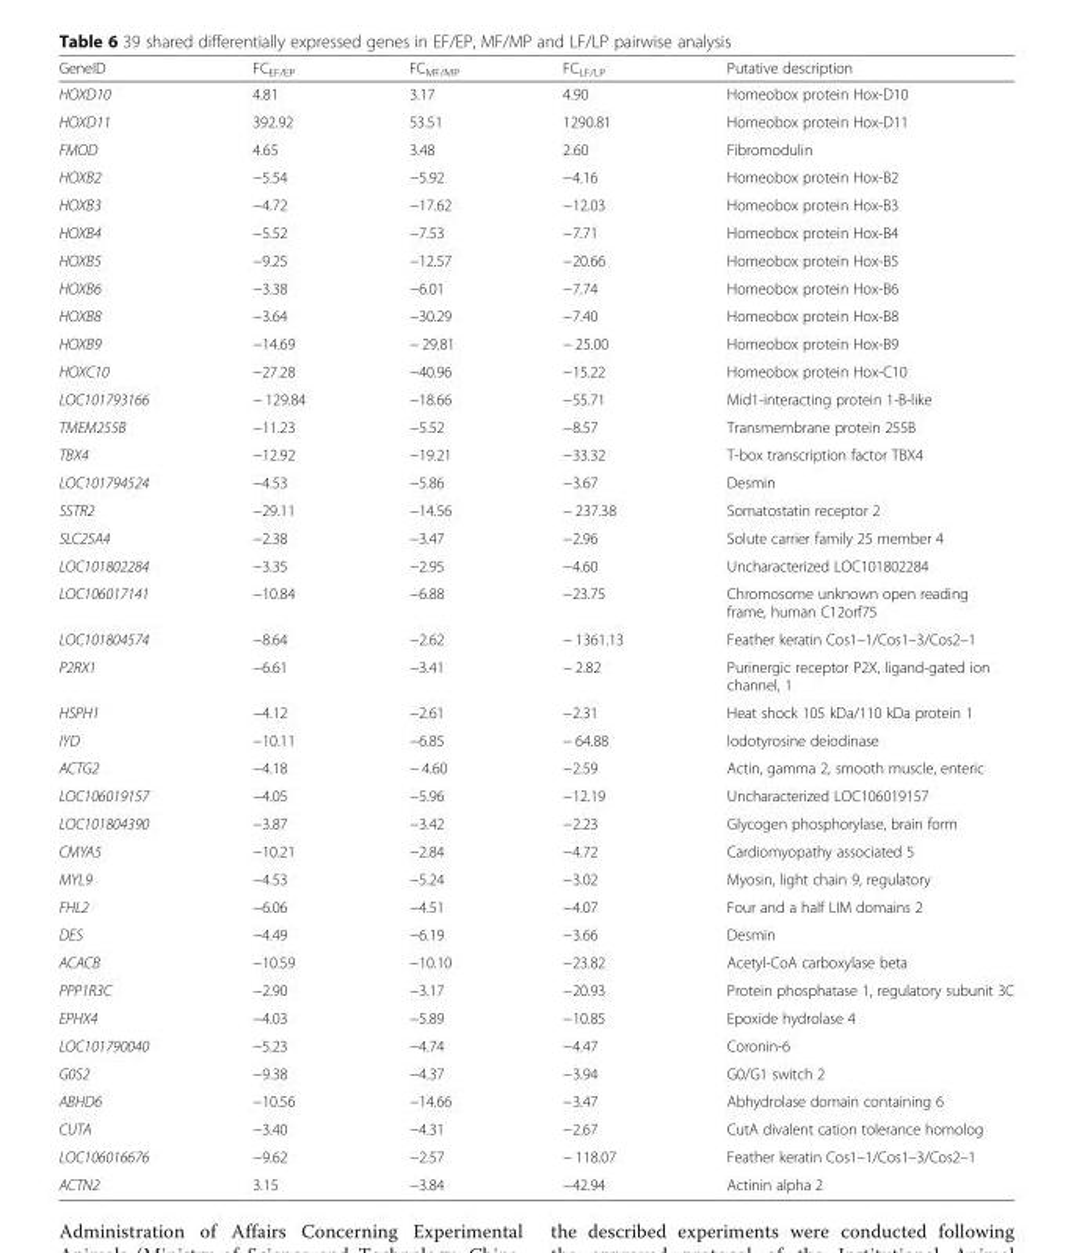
<table><thead><tr><td>GeneID</td><td>FC<sub>EF/EP</sub></td><td>FC<sub>MF/MP</sub></td><td>FC<sub>LF/LP</sub></td><td>Putative description</td></tr></thead><tbody><tr><td>HOXD10</td><td>4.81</td><td>3.17</td><td>4.90</td><td>Homeobox protein Hox-D10</td></tr><tr><td>HOXD11</td><td>392.92</td><td>53.51</td><td>1290.81</td><td>Homeobox protein Hox-D11</td></tr><tr><td>FMOD</td><td>4.65</td><td>3.48</td><td>2.60</td><td>Fibromodulin</td></tr><tr><td>HOXB2</td><td>−5.54</td><td>−5.92</td><td>−4.16</td><td>Homeobox protein Hox-B2</td></tr><tr><td>HOXB3</td><td>−4.72</td><td>−17.62</td><td>−12.03</td><td>Homeobox protein Hox-B3</td></tr><tr><td>HOXB4</td><td>−5.52</td><td>−7.53</td><td>−7.71</td><td>Homeobox protein Hox-B4</td></tr><tr><td>HOXB5</td><td>−9.25</td><td>−12.57</td><td>−20.66</td><td>Homeobox protein Hox-B5</td></tr><tr><td>HOXB6</td><td>−3.38</td><td>−6.01</td><td>−7.74</td><td>Homeobox protein Hox-B6</td></tr><tr><td>HOXB8</td><td>−3.64</td><td>−30.29</td><td>−7.40</td><td>Homeobox protein Hox-B8</td></tr><tr><td>HOXB9</td><td>−14.69</td><td>− 29.81</td><td>− 25.00</td><td>Homeobox protein Hox-B9</td></tr><tr><td>HOXC10</td><td>−27.28</td><td>−40.96</td><td>−15.22</td><td>Homeobox protein Hox-C10</td></tr><tr><td>LOC101793166</td><td>− 129.84</td><td>−18.66</td><td>−55.71</td><td>Mid1-interacting protein 1-B-like</td></tr><tr><td>TMEM255B</td><td>−11.23</td><td>−5.52</td><td>−8.57</td><td>Transmembrane protein 255B</td></tr><tr><td>TBX4</td><td>−12.92</td><td>−19.21</td><td>−33.32</td><td>T-box transcription factor TBX4</td></tr><tr><td>LOC101794524</td><td>−4.53</td><td>−5.86</td><td>−3.67</td><td>Desmin</td></tr><tr><td>SSTR2</td><td>−29.11</td><td>−14.56</td><td>− 237.38</td><td>Somatostatin receptor 2</td></tr><tr><td>SLC25A4</td><td>−2.38</td><td>−3.47</td><td>−2.96</td><td>Solute carrier family 25 member 4</td></tr><tr><td>LOC101802284</td><td>−3.35</td><td>−2.95</td><td>−4.60</td><td>Uncharacterized LOC101802284</td></tr><tr><td>LOC106017141</td><td>−10.84</td><td>−6.88</td><td>−23.75</td><td>Chromosome unknown open reading frame, human C12orf75</td></tr><tr><td>LOC101804574</td><td>−8.64</td><td>−2.62</td><td>− 1361.13</td><td>Feather keratin Cos1–1/Cos1–3/Cos2–1</td></tr><tr><td>P2RX1</td><td>−6.61</td><td>−3.41</td><td>− 2.82</td><td>Purinergic receptor P2X, ligand-gated ion channel, 1</td></tr><tr><td>HSPH1</td><td>−4.12</td><td>−2.61</td><td>−2.31</td><td>Heat shock 105 kDa/110 kDa protein 1</td></tr><tr><td>IYD</td><td>−10.11</td><td>−6.85</td><td>− 64.88</td><td>Iodotyrosine deiodinase</td></tr><tr><td>ACTG2</td><td>−4.18</td><td>− 4.60</td><td>−2.59</td><td>Actin, gamma 2, smooth muscle, enteric</td></tr><tr><td>LOC106019157</td><td>−4.05</td><td>−5.96</td><td>−12.19</td><td>Uncharacterized LOC106019157</td></tr><tr><td>LOC101804390</td><td>−3.87</td><td>−3.42</td><td>−2.23</td><td>Glycogen phosphorylase, brain form</td></tr><tr><td>CMYA5</td><td>−10.21</td><td>−2.84</td><td>−4.72</td><td>Cardiomyopathy associated 5</td></tr><tr><td>MYL9</td><td>−4.53</td><td>−5.24</td><td>−3.02</td><td>Myosin, light chain 9, regulatory</td></tr><tr><td>FHL2</td><td>−6.06</td><td>−4.51</td><td>−4.07</td><td>Four and a half LIM domains 2</td></tr><tr><td>DES</td><td>−4.49</td><td>−6.19</td><td>−3.66</td><td>Desmin</td></tr><tr><td>ACACB</td><td>−10.59</td><td>−10.10</td><td>−23.82</td><td>Acetyl-CoA carboxylase beta</td></tr><tr><td>PPP1R3C</td><td>−2.90</td><td>−3.17</td><td>−20.93</td><td>Protein phosphatase 1, regulatory subunit 3C</td></tr><tr><td>EPHX4</td><td>−4.03</td><td>−5.89</td><td>−10.85</td><td>Epoxide hydrolase 4</td></tr><tr><td>LOC101790040</td><td>−5.23</td><td>−4.74</td><td>−4.47</td><td>Coronin-6</td></tr><tr><td>G0S2</td><td>−9.38</td><td>−4.37</td><td>−3.94</td><td>G0/G1 switch 2</td></tr><tr><td>ABHD6</td><td>−10.56</td><td>−14.66</td><td>−3.47</td><td>Abhydrolase domain containing 6</td></tr><tr><td>CUTA</td><td>−3.40</td><td>−4.31</td><td>−2.67</td><td>CutA divalent cation tolerance homolog</td></tr><tr><td>LOC106016676</td><td>−9.62</td><td>−2.57</td><td>− 118.07</td><td>Feather keratin Cos1–1/Cos1–3/Cos2–1</td></tr><tr><td>ACTN2</td><td>3.15</td><td>−3.84</td><td>−42.94</td><td>Actinin alpha 2</td></tr></tbody></table>